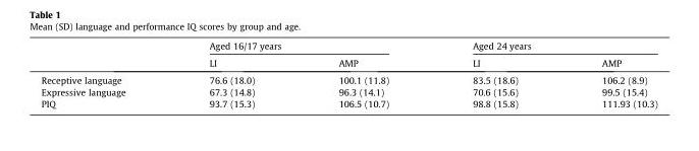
<table><thead><tr><td rowspan="2"></td><td colspan="2">Aged 16/17 years</td><td colspan="2">Aged 24 years</td></tr><tr><td>LI</td><td>AMP</td><td>LI</td><td>AMP</td></tr></thead><tbody><tr><td>Receptive language</td><td>76.6 (18.0)</td><td>100.1 (11.8)</td><td>83.5 (18.6)</td><td>106.2 (8.9)</td></tr><tr><td>Expressive language</td><td>67.3 (14.8)</td><td>96.3 (14.1)</td><td>70.6 (15.6)</td><td>99.5 (15.4)</td></tr><tr><td>PIQ</td><td>93.7 (15.3)</td><td>106.5 (10.7)</td><td>98.8 (15.8)</td><td>111.93 (10.3)</td></tr></tbody></table>